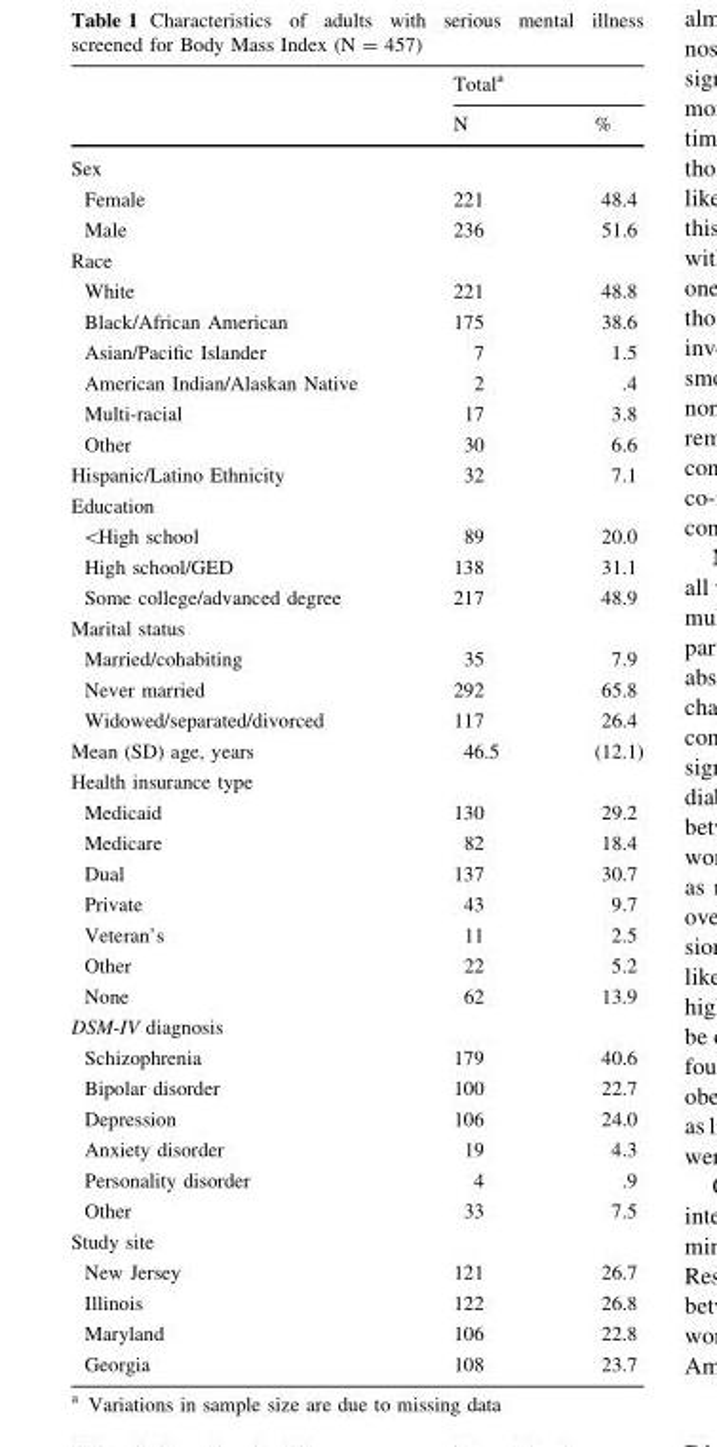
<table><thead><tr><td rowspan="2"></td><td colspan="2">Total<sup>a</sup></td></tr><tr><td>N</td><td>%</td></tr></thead><tbody><tr><td colspan="3">Sex</td></tr><tr><td>Female</td><td>221</td><td>48.4</td></tr><tr><td>Male</td><td>236</td><td>51.6</td></tr><tr><td colspan="3">Race</td></tr><tr><td>White</td><td>221</td><td>48.8</td></tr><tr><td>Black/African American</td><td>175</td><td>38.6</td></tr><tr><td>Asian/Pacific Islander</td><td>7</td><td>1.5</td></tr><tr><td>American Indian/Alaskan Native</td><td>2</td><td>.4</td></tr><tr><td>Multi-racial</td><td>17</td><td>3.8</td></tr><tr><td>Other</td><td>30</td><td>6.6</td></tr><tr><td>Hispanic/Latino Ethnicity</td><td>32</td><td>7.1</td></tr><tr><td colspan="3">Education</td></tr><tr><td>&lt;High school</td><td>89</td><td>20.0</td></tr><tr><td>High school/GED</td><td>138</td><td>31.1</td></tr><tr><td>Some college/advanced degree</td><td>217</td><td>48.9</td></tr><tr><td colspan="3">Marital status</td></tr><tr><td>Married/cohabiting</td><td>35</td><td>7.9</td></tr><tr><td>Never married</td><td>292</td><td>65.8</td></tr><tr><td>Widowed/separated/divorced</td><td>117</td><td>26.4</td></tr><tr><td>Mean (SD) age, years</td><td>46.5</td><td>(12.1)</td></tr><tr><td colspan="3">Health insurance type</td></tr><tr><td>Medicaid</td><td>130</td><td>29.2</td></tr><tr><td>Medicare</td><td>82</td><td>18.4</td></tr><tr><td>Dual</td><td>137</td><td>30.7</td></tr><tr><td>Private</td><td>43</td><td>9.7</td></tr><tr><td>Veteran’s</td><td>11</td><td>2.5</td></tr><tr><td>Other</td><td>22</td><td>5.2</td></tr><tr><td>None</td><td>62</td><td>13.9</td></tr><tr><td colspan="3">DSM-IV diagnosis</td></tr><tr><td>Schizophrenia</td><td>179</td><td>40.6</td></tr><tr><td>Bipolar disorder</td><td>100</td><td>22.7</td></tr><tr><td>Depression</td><td>106</td><td>24.0</td></tr><tr><td>Anxiety disorder</td><td>19</td><td>4.3</td></tr><tr><td>Personality disorder</td><td>4</td><td>.9</td></tr><tr><td>Other</td><td>33</td><td>7.5</td></tr><tr><td colspan="3">Study site</td></tr><tr><td>New Jersey</td><td>121</td><td>26.7</td></tr><tr><td>Illinois</td><td>122</td><td>26.8</td></tr><tr><td>Maryland</td><td>106</td><td>22.8</td></tr><tr><td>Georgia</td><td>108</td><td>23.7</td></tr></tbody></table>